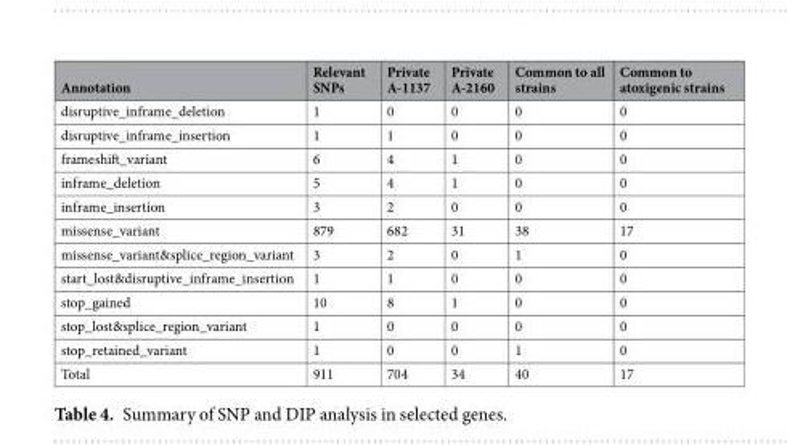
<table><thead><tr><td>Annotation</td><td>Relevant SNPs</td><td>Private A-1137</td><td>Private A-2160</td><td>Common to all strains</td><td>Common to atoxigenic strains</td></tr></thead><tbody><tr><td>disruptive_inframe_deletion</td><td>1</td><td>0</td><td>0</td><td>0</td><td>0</td></tr><tr><td>disruptive_inframe_insertion</td><td>1</td><td>1</td><td>0</td><td>0</td><td>0</td></tr><tr><td>frameshift_variant</td><td>6</td><td>4</td><td>1</td><td>0</td><td>0</td></tr><tr><td>inframe_deletion</td><td>5</td><td>4</td><td>1</td><td>0</td><td>0</td></tr><tr><td>inframe_insertion</td><td>3</td><td>2</td><td>0</td><td>0</td><td>0</td></tr><tr><td>missense_variant</td><td>879</td><td>682</td><td>31</td><td>38</td><td>17</td></tr><tr><td>missense_variant&amp;splice_region_variant</td><td>3</td><td>2</td><td>0</td><td>1</td><td>0</td></tr><tr><td>start_lost&amp;disruptive_inframe_insertion</td><td>1</td><td>1</td><td>0</td><td>0</td><td>0</td></tr><tr><td>stop_gained</td><td>10</td><td>8</td><td>1</td><td>0</td><td>0</td></tr><tr><td>stop_lost&amp;splice_region_variant</td><td>1</td><td>0</td><td>0</td><td>0</td><td>0</td></tr><tr><td>stop_retained_variant</td><td>1</td><td>0</td><td>0</td><td>1</td><td>0</td></tr><tr><td>Total</td><td>911</td><td>704</td><td>34</td><td>40</td><td>17</td></tr></tbody></table>